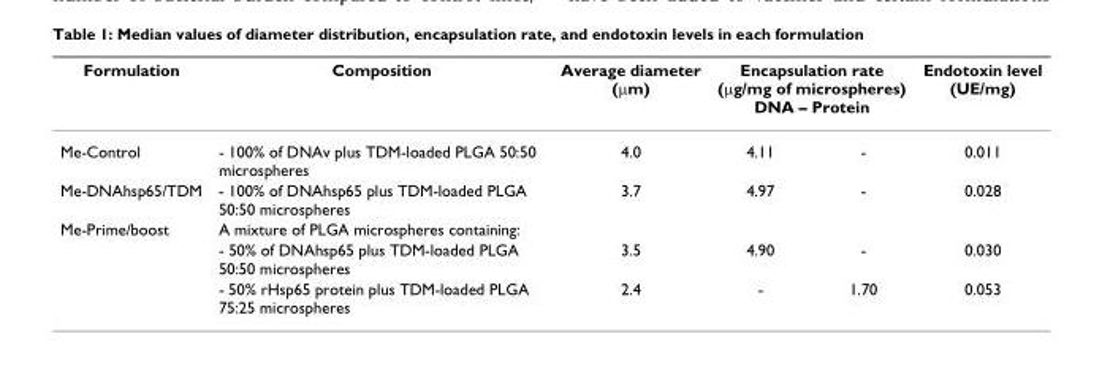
<table><thead><tr><td rowspan="2">Formulation Me-Control</td><td rowspan="2">Composition - 100% of DNAv plus TDM-loaded PLGA 50:50 microspheres</td><td rowspan="2">Average diameter (μm) 4.0</td><td colspan="2">Encapsulation rate (μg/mg of microspheres) DNA – Protein</td><td rowspan="2">Endotoxin level (UE/mg) 0.011</td></tr><tr><td>4.11</td><td>-</td></tr></thead><tbody><tr><td>Me-DNAhsp65/TDM</td><td>- 100% of DNAhsp65 plus TDM-loaded PLGA 50:50 microspheres</td><td>3.7</td><td>4.97</td><td>-</td><td>0.028</td></tr><tr><td rowspan="3">Me-Prime/boost</td><td>A mixture of PLGA microspheres containing:</td><td></td><td></td><td></td><td></td></tr><tr><td>- 50% of DNAhsp65 plus TDM-loaded PLGA 50:50 microspheres</td><td>3.5</td><td>4.90</td><td>-</td><td>0.030</td></tr><tr><td>- 50% rHsp65 protein plus TDM-loaded PLGA 75:25 microspheres</td><td>2.4</td><td>-</td><td>1.70</td><td>0.053</td></tr></tbody></table>